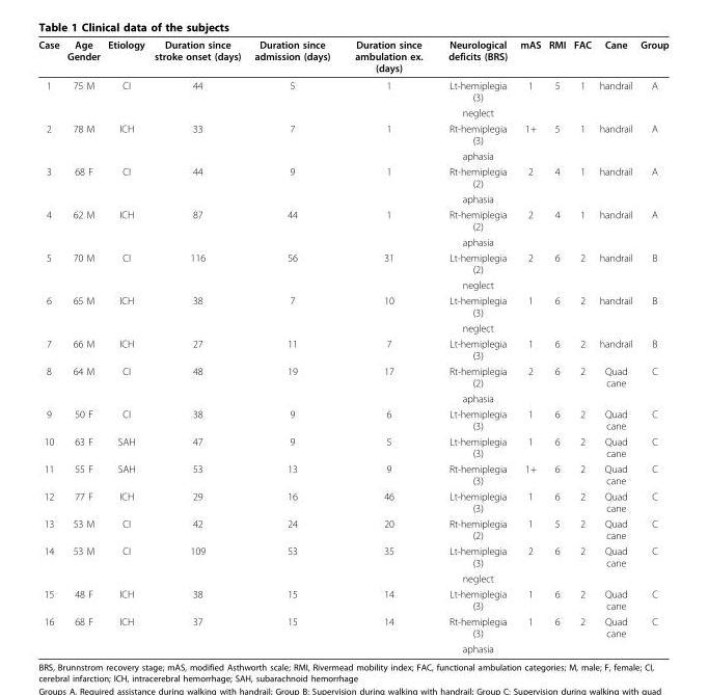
<table><thead><tr><td>Case</td><td>Age Gender</td><td>Etiology</td><td>Duration since stroke onset (days)</td><td>Duration since admission (days)</td><td>Duration since ambulation ex. (days)</td><td>Neurological deficits (BRS)</td><td>mAS</td><td>RMI</td><td>FAC</td><td>Cane</td><td>Group</td></tr></thead><tbody><tr><td rowspan="2">1</td><td>75 M</td><td>CI</td><td>44</td><td>5</td><td>1</td><td>Lt-hemiplegia (3)</td><td>1</td><td>5</td><td>1</td><td>handrail</td><td>A</td></tr><tr><td></td><td></td><td></td><td></td><td></td><td>neglect</td><td></td><td></td><td></td><td></td><td></td></tr><tr><td rowspan="2">2</td><td>78 M</td><td>ICH</td><td>33</td><td>7</td><td>1</td><td>Rt-hemiplegia (3)</td><td>1+</td><td>5</td><td>1</td><td>handrail</td><td>A</td></tr><tr><td></td><td></td><td></td><td></td><td></td><td>aphasia</td><td></td><td></td><td></td><td></td><td></td></tr><tr><td rowspan="2">3</td><td>68 F</td><td>CI</td><td>44</td><td>9</td><td>1</td><td>Rt-hemiplegia (2)</td><td>2</td><td>4</td><td>1</td><td>handrail</td><td>A</td></tr><tr><td></td><td></td><td></td><td></td><td></td><td>aphasia</td><td></td><td></td><td></td><td></td><td></td></tr><tr><td rowspan="2">4</td><td>62 M</td><td>ICH</td><td>87</td><td>44</td><td>1</td><td>Rt-hemiplegia (2)</td><td>2</td><td>4</td><td>1</td><td>handrail</td><td>A</td></tr><tr><td></td><td></td><td></td><td></td><td></td><td>aphasia</td><td></td><td></td><td></td><td></td><td></td></tr><tr><td rowspan="2">5</td><td>70 M</td><td>CI</td><td>116</td><td>56</td><td>31</td><td>Lt-hemiplegia (2)</td><td>2</td><td>6</td><td>2</td><td>handrail</td><td>B</td></tr><tr><td></td><td></td><td></td><td></td><td></td><td>neglect</td><td></td><td></td><td></td><td></td><td></td></tr><tr><td rowspan="2">6</td><td>65 M</td><td>ICH</td><td>38</td><td>7</td><td>10</td><td>Lt-hemiplegia (3)</td><td>1</td><td>6</td><td>2</td><td>handrail</td><td>B</td></tr><tr><td></td><td></td><td></td><td></td><td></td><td>neglect</td><td></td><td></td><td></td><td></td><td></td></tr><tr><td>7</td><td>66 M</td><td>ICH</td><td>27</td><td>11</td><td>7</td><td>Lt-hemiplegia (3)</td><td>1</td><td>6</td><td>2</td><td>handrail</td><td>B</td></tr><tr><td rowspan="2">8</td><td>64 M</td><td>CI</td><td>48</td><td>19</td><td>17</td><td>Rt-hemiplegia (2)</td><td>2</td><td>6</td><td>2</td><td>Quad cane</td><td>C</td></tr><tr><td></td><td></td><td></td><td></td><td></td><td>aphasia</td><td></td><td></td><td></td><td></td><td></td></tr><tr><td>9</td><td>50 F</td><td>CI</td><td>38</td><td>9</td><td>6</td><td>Lt-hemiplegia (3)</td><td>1</td><td>6</td><td>2</td><td>Quad cane</td><td>C</td></tr><tr><td>10</td><td>63 F</td><td>SAH</td><td>47</td><td>9</td><td>5</td><td>Lt-hemiplegia (3)</td><td>1</td><td>6</td><td>2</td><td>Quad cane</td><td>C</td></tr><tr><td>11</td><td>55 F</td><td>SAH</td><td>53</td><td>13</td><td>9</td><td>Rt-hemiplegia (3)</td><td>1+</td><td>6</td><td>2</td><td>Quad cane</td><td>C</td></tr><tr><td>12</td><td>77 F</td><td>ICH</td><td>29</td><td>16</td><td>46</td><td>Lt-hemiplegia (3)</td><td>1</td><td>6</td><td>2</td><td>Quad cane</td><td>C</td></tr><tr><td>13</td><td>53 M</td><td>CI</td><td>42</td><td>24</td><td>20</td><td>Rt-hemiplegia (2)</td><td>1</td><td>5</td><td>2</td><td>Quad cane</td><td>C</td></tr><tr><td rowspan="2">14</td><td>53 M</td><td>CI</td><td>109</td><td>53</td><td>35</td><td>Lt-hemiplegia (3)</td><td>2</td><td>6</td><td>2</td><td>Quad cane</td><td>C</td></tr><tr><td></td><td></td><td></td><td></td><td></td><td>neglect</td><td></td><td></td><td></td><td></td><td></td></tr><tr><td>15</td><td>48 F</td><td>ICH</td><td>38</td><td>15</td><td>14</td><td>Lt-hemiplegia (3)</td><td>1</td><td>6</td><td>2</td><td>Quad cane</td><td>C</td></tr><tr><td rowspan="2">16</td><td>68 F</td><td>ICH</td><td>37</td><td>15</td><td>14</td><td>Rt-hemiplegia (3)</td><td>1</td><td>6</td><td>2</td><td>Quad cane</td><td>C</td></tr><tr><td></td><td></td><td></td><td></td><td></td><td>aphasia</td><td></td><td></td><td></td><td></td><td></td></tr></tbody></table>